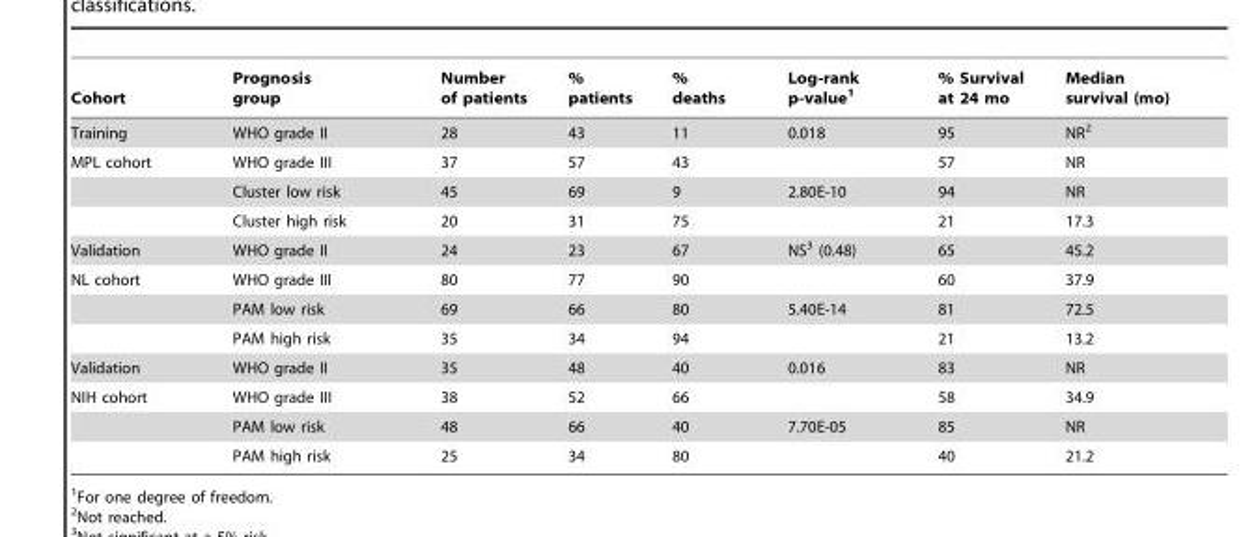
<table><thead><tr><td>Cohort</td><td>Prognosis group</td><td>Number of patients</td><td>% patients</td><td>% deaths</td><td>Log-rank p-value<sup>1</sup></td><td>% Survival at 24 mo</td><td>Median survival (mo)</td></tr></thead><tbody><tr><td>Training</td><td>WHO grade II</td><td>28</td><td>43</td><td>11</td><td>0.018</td><td>95</td><td>NR<sup>2</sup></td></tr><tr><td rowspan="3">MPL cohort</td><td>WHO grade III</td><td>37</td><td>57</td><td>43</td><td></td><td>57</td><td>NR</td></tr><tr><td>Cluster low risk</td><td>45</td><td>69</td><td>9</td><td>2.80E-10</td><td>94</td><td>NR</td></tr><tr><td>Cluster high risk</td><td>20</td><td>31</td><td>75</td><td></td><td>21</td><td>17.3</td></tr><tr><td>Validation</td><td>WHO grade II</td><td>24</td><td>23</td><td>67</td><td>NS<sup>3</sup> (0.48)</td><td>65</td><td>45.2</td></tr><tr><td rowspan="3">NL cohort</td><td>WHO grade III</td><td>80</td><td>77</td><td>90</td><td></td><td>60</td><td>37.9</td></tr><tr><td>PAM low risk</td><td>69</td><td>66</td><td>80</td><td>5.40E-14</td><td>81</td><td>72.5</td></tr><tr><td>PAM high risk</td><td>35</td><td>34</td><td>94</td><td></td><td>21</td><td>13.2</td></tr><tr><td>Validation</td><td>WHO grade II</td><td>35</td><td>48</td><td>40</td><td>0.016</td><td>83</td><td>NR</td></tr><tr><td rowspan="3">NIH cohort</td><td>WHO grade III</td><td>38</td><td>52</td><td>66</td><td></td><td>58</td><td>34.9</td></tr><tr><td>PAM low risk</td><td>48</td><td>66</td><td>40</td><td>7.70E-05</td><td>85</td><td>NR</td></tr><tr><td>PAM high risk</td><td>25</td><td>34</td><td>80</td><td></td><td>40</td><td>21.2</td></tr></tbody></table>